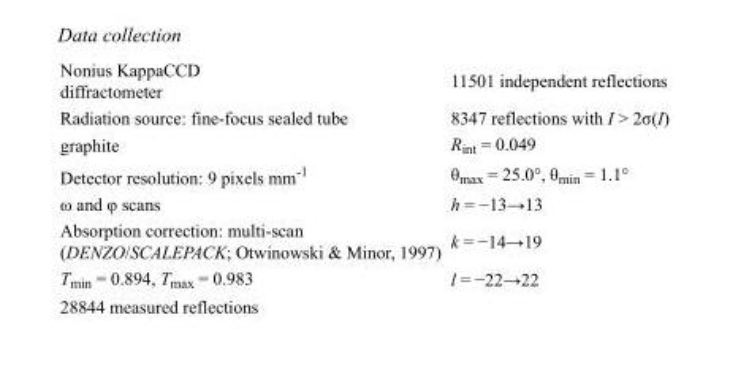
<table><tbody><tr><td>Nonius KappaCCD diffractometer</td><td>11501 independent reflections</td></tr><tr><td>Radiation source: fine-focus sealed tube</td><td>8347 reflections with I &gt; 2σ(I)</td></tr><tr><td>graphite</td><td>R<sub>int</sub> = 0.049</td></tr><tr><td>Detector resolution: 9 pixels mm<sup>-1</sup></td><td>θ<sub>max</sub> = 25.0°, θ<sub>min</sub> = 1.1°</td></tr><tr><td>ω and φ scans</td><td>h = −13→13</td></tr><tr><td>Absorption correction: multi-scan (DENZO/SCALEPACK; Otwinowski &amp; Minor, 1997)</td><td>k = −14→19</td></tr><tr><td>T<sub>min</sub> = 0.894, T<sub>max</sub> = 0.983</td><td>l = −22→22</td></tr><tr><td>28844 measured reflections</td><td></td></tr></tbody></table>